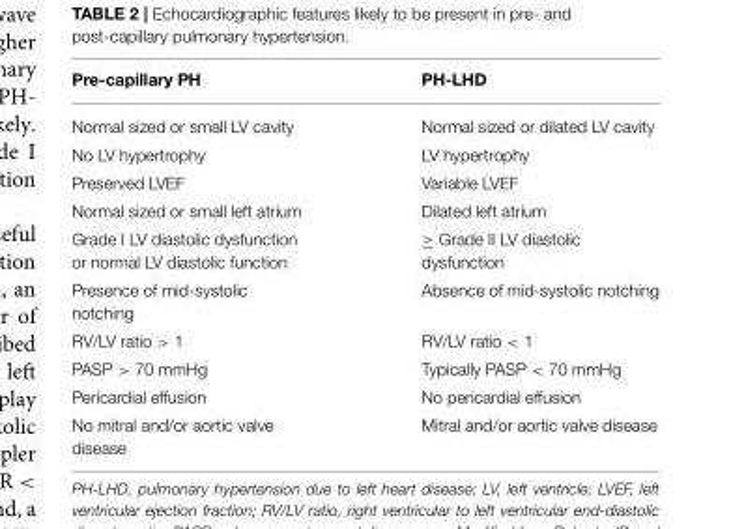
<table><thead><tr><td>Pre-capillary PH</td><td>PH-LHD</td></tr></thead><tbody><tr><td>Normal sized or small LV cavity</td><td>Normal sized or dilated LV cavity</td></tr><tr><td>No LV hypertrophy</td><td>LV hypertrophy</td></tr><tr><td>Preserved LVEF</td><td>Variable LVEF</td></tr><tr><td>Normal sized or small left atrium</td><td>Dilated left atrium</td></tr><tr><td>Grade I LV diastolic dysfunction or normal LV diastolic function</td><td>≥ Grade II LV diastolic dysfunction</td></tr><tr><td>Presence of mid-systolic notching</td><td>Absence of mid-systolic notching</td></tr><tr><td>RV/LV ratio &gt; 1</td><td>RV/LV ratio &lt; 1</td></tr><tr><td>PASP &gt; 70 mmHg</td><td>Typically PASP &lt; 70 mmHg</td></tr><tr><td>Pericardial effusion</td><td>No pericardial effusion</td></tr><tr><td>No mitral and/or aortic valve disease</td><td>Mitral and/or aortic valve disease</td></tr></tbody></table>